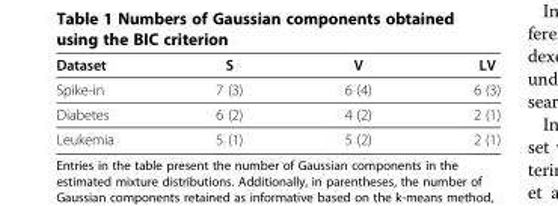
<table><thead><tr><td>Dataset</td><td>S</td><td>V</td><td>LV</td></tr></thead><tbody><tr><td>Spike-in</td><td>7 (3)</td><td>6 (4)</td><td>6 (3)</td></tr><tr><td>Diabetes</td><td>6 (2)</td><td>4 (2)</td><td>2 (1)</td></tr><tr><td>Leukemia</td><td>5 (1)</td><td>5 (2)</td><td>2 (1)</td></tr></tbody></table>